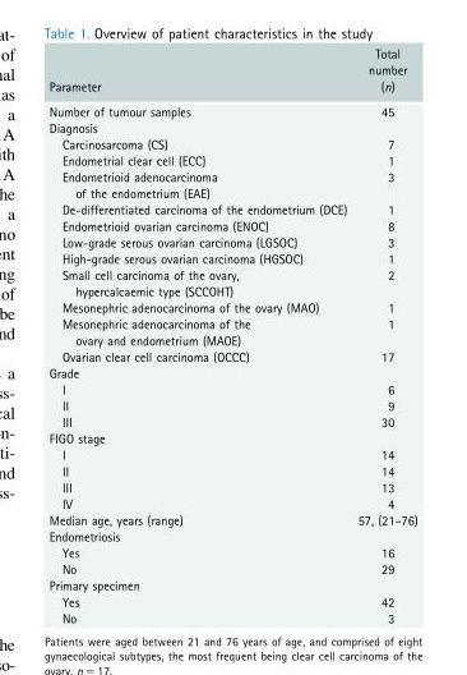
<table><thead><tr><td>Parameter</td><td>Total number (n)</td></tr></thead><tbody><tr><td>Number of tumour samples</td><td>45</td></tr><tr><td colspan="2">Diagnosis</td></tr><tr><td>Carcinosarcoma (CS)</td><td>7</td></tr><tr><td>Endometrial clear cell (ECC)</td><td>1</td></tr><tr><td>Endometrioid adenocarcinoma of the endometrium (EAE)</td><td>3</td></tr><tr><td>De-differentiated carcinoma of the endometrium (DCE)</td><td>1</td></tr><tr><td>Endometrioid ovarian carcinoma (ENOC)</td><td>8</td></tr><tr><td>Low-grade serous ovarian carcinoma (LGSOC)</td><td>3</td></tr><tr><td>High-grade serous ovarian carcinoma (HGSOC)</td><td>1</td></tr><tr><td>Small cell carcinoma of the ovary, hypercalcaemic type (SCCOHT)</td><td>2</td></tr><tr><td>Mesonephric adenocarcinoma of the ovary (MAO)</td><td>1</td></tr><tr><td>Mesonephric adenocarcinoma of the ovary and endometrium (MAOE)</td><td>1</td></tr><tr><td>Ovarian clear cell carcinoma (OCCC)</td><td>17</td></tr><tr><td colspan="2">Grade</td></tr><tr><td>I</td><td>6</td></tr><tr><td>II</td><td>9</td></tr><tr><td>III</td><td>30</td></tr><tr><td colspan="2">FIGO stage</td></tr><tr><td>I</td><td>14</td></tr><tr><td>II</td><td>14</td></tr><tr><td>III</td><td>13</td></tr><tr><td>IV</td><td>4</td></tr><tr><td>Median age, years (range)</td><td>57, (21–76)</td></tr><tr><td colspan="2">Endometriosis</td></tr><tr><td>Yes</td><td>16</td></tr><tr><td>No</td><td>29</td></tr><tr><td colspan="2">Primary specimen</td></tr><tr><td>Yes</td><td>42</td></tr><tr><td>No</td><td>3</td></tr></tbody></table>